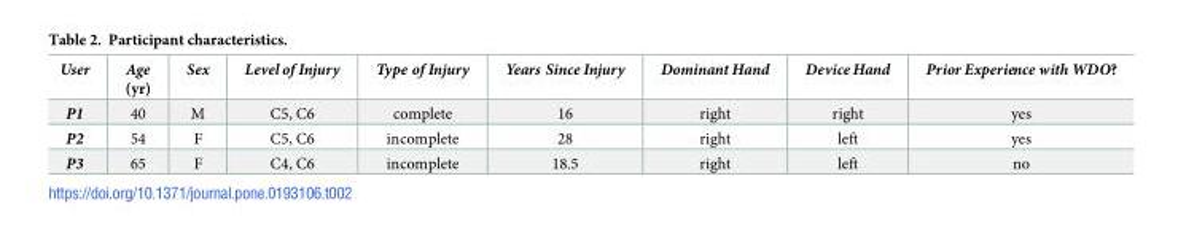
<table><thead><tr><td>User</td><td>Age (yr)</td><td>Sex</td><td>Level of Injury</td><td>Type of Injury</td><td>Years Since Injury</td><td>Dominant Hand</td><td>Device Hand</td><td>Prior Experience with WDO?</td></tr></thead><tbody><tr><td>P1</td><td>40</td><td>M</td><td>C5, C6</td><td>complete</td><td>16</td><td>right</td><td>right</td><td>yes</td></tr><tr><td>P2</td><td>54</td><td>F</td><td>C5, C6</td><td>incomplete</td><td>28</td><td>right</td><td>left</td><td>yes</td></tr><tr><td>P3</td><td>65</td><td>F</td><td>C4, C6</td><td>incomplete</td><td>18.5</td><td>right</td><td>left</td><td>no</td></tr></tbody></table>